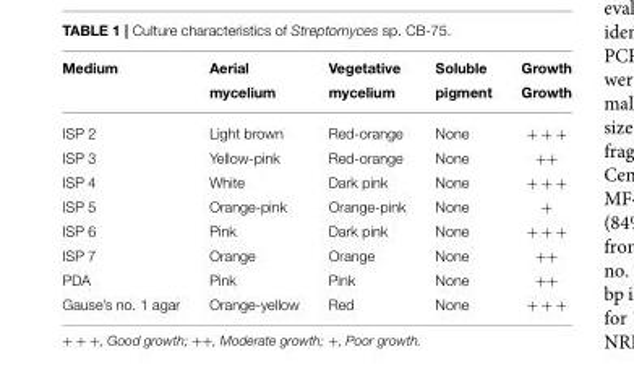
<table><thead><tr><td>Medium</td><td>Aerial mycelium</td><td>Vegetative mycelium</td><td>Soluble pigment</td><td>Growth Growth</td></tr></thead><tbody><tr><td>ISP 2</td><td>Light brown</td><td>Red-orange</td><td>None</td><td>+ + +</td></tr><tr><td>ISP 3</td><td>Yellow-pink</td><td>Red-orange</td><td>None</td><td>++</td></tr><tr><td>ISP 4</td><td>White</td><td>Dark pink</td><td>None</td><td>+ + +</td></tr><tr><td>ISP 5</td><td>Orange-pink</td><td>Orange-pink</td><td>None</td><td>+</td></tr><tr><td>ISP 6</td><td>Pink</td><td>Dark pink</td><td>None</td><td>+ + +</td></tr><tr><td>ISP 7</td><td>Orange</td><td>Orange</td><td>None</td><td>++</td></tr><tr><td>PDA</td><td>Pink</td><td>Pink</td><td>None</td><td>++</td></tr><tr><td>Gause’s no. 1 agar</td><td>Orange-yellow</td><td>Red</td><td>None</td><td>+ + +</td></tr></tbody></table>